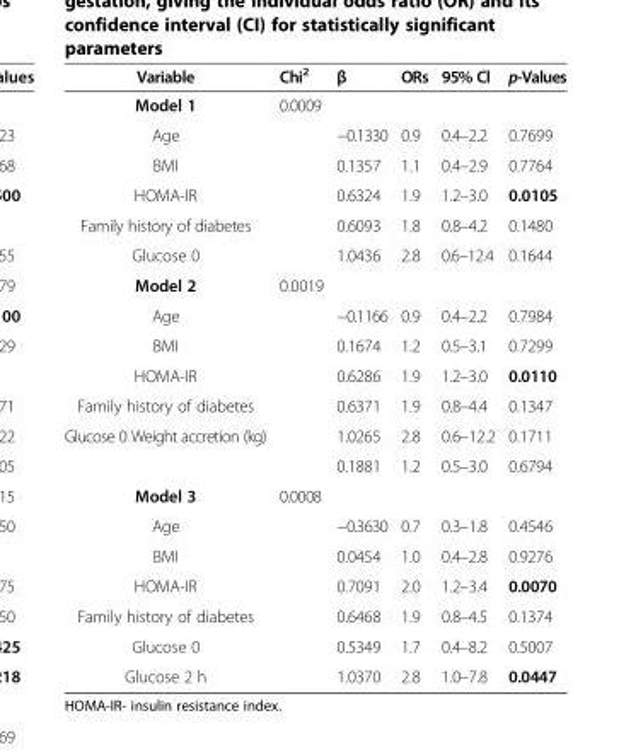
<table><thead><tr><td>Variable</td><td>Chi<sup>2</sup></td><td>β</td><td>ORs</td><td>95% Cl</td><td>p-Values</td></tr></thead><tbody><tr><td>Model 1</td><td>0.0009</td><td></td><td></td><td></td><td></td></tr><tr><td>Age</td><td></td><td>−0.1330</td><td>0.9</td><td>0.4–2.2</td><td>0.7699</td></tr><tr><td>BMI</td><td></td><td>0.1357</td><td>1.1</td><td>0.4–2.9</td><td>0.7764</td></tr><tr><td>HOMA-IR</td><td></td><td>0.6324</td><td>1.9</td><td>1.2–3.0</td><td>0.0105</td></tr><tr><td>Family history of diabetes</td><td></td><td>0.6093</td><td>1.8</td><td>0.8–4.2</td><td>0.1480</td></tr><tr><td>Glucose 0</td><td></td><td>1.0436</td><td>2.8</td><td>0.6–12.4</td><td>0.1644</td></tr><tr><td>Model 2</td><td>0.0019</td><td></td><td></td><td></td><td></td></tr><tr><td>Age</td><td></td><td>−0.1166</td><td>0.9</td><td>0.4–2.2</td><td>0.7984</td></tr><tr><td>BMI</td><td></td><td>0.1674</td><td>1.2</td><td>0.5–3.1</td><td>0.7299</td></tr><tr><td>HOMA-IR</td><td></td><td>0.6286</td><td>1.9</td><td>1.2–3.0</td><td>0.0110</td></tr><tr><td>Family history of diabetes</td><td></td><td>0.6371</td><td>1.9</td><td>0.8–4.4</td><td>0.1347</td></tr><tr><td rowspan="2">Glucose 0 Weight accretion (kg)</td><td rowspan="2"></td><td>1.0265</td><td>2.8</td><td>0.6–12.2</td><td>0.1711</td></tr><tr><td>0.1881</td><td>1.2</td><td>0.5–3.0</td><td>0.6794</td></tr><tr><td>Model 3</td><td>0.0008</td><td></td><td></td><td></td><td></td></tr><tr><td>Age</td><td></td><td>−0.3630</td><td>0.7</td><td>0.3–1.8</td><td>0.4546</td></tr><tr><td>BMI</td><td></td><td>0.0454</td><td>1.0</td><td>0.4–2.8</td><td>0.9276</td></tr><tr><td>HOMA-IR</td><td></td><td>0.7091</td><td>2.0</td><td>1.2–3.4</td><td>0.0070</td></tr><tr><td>Family history of diabetes</td><td></td><td>0.6468</td><td>1.9</td><td>0.8–4.5</td><td>0.1374</td></tr><tr><td>Glucose 0</td><td></td><td>0.5349</td><td>1.7</td><td>0.4–8.2</td><td>0.5007</td></tr><tr><td>Glucose 2 h</td><td></td><td>1.0370</td><td>2.8</td><td>1.0–7.8</td><td>0.0447</td></tr></tbody></table>